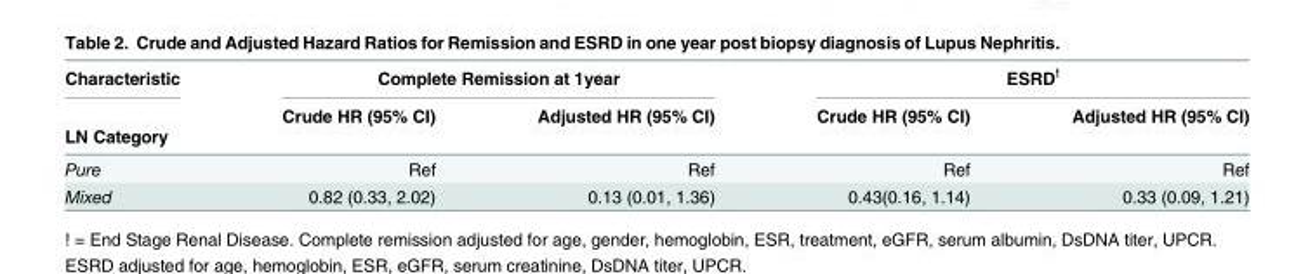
<table><thead><tr><td rowspan="2">Characteristic</td><td colspan="2">Complete Remission at 1year</td><td colspan="2">ESRD<sup>!</sup></td></tr><tr><td>Crude HR (95% CI)</td><td>Adjusted HR (95% CI)</td><td>Crude HR (95% CI)</td><td>Adjusted HR (95% CI)</td></tr><tr><td colspan="5">LN Category</td></tr></thead><tbody><tr><td>Pure</td><td>Ref</td><td>Ref</td><td>Ref</td><td>Ref</td></tr><tr><td>Mixed</td><td>0.82 (0.33, 2.02)</td><td>0.13 (0.01, 1.36)</td><td>0.43(0.16, 1.14)</td><td>0.33 (0.09, 1.21)</td></tr></tbody></table>